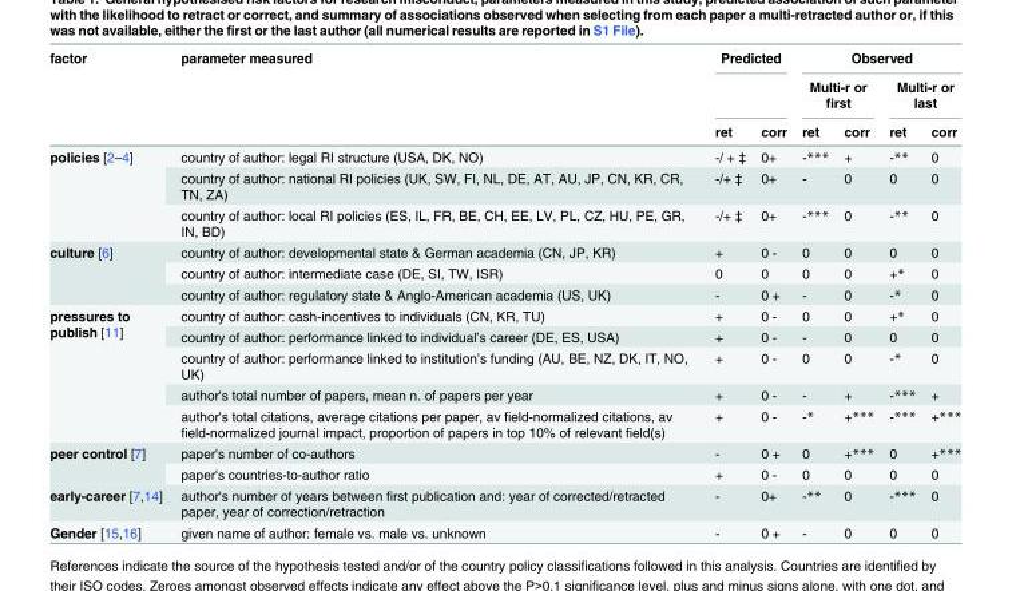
<table><thead><tr><td rowspan="3">factor</td><td rowspan="3">parameter measured</td><td colspan="2">Predicted</td><td colspan="4">Observed</td></tr><tr><td rowspan="2">ret</td><td rowspan="2">corr</td><td colspan="2">Multi-r or first</td><td colspan="2">Multi-r or last</td></tr><tr><td>ret</td><td>corr</td><td>ret</td><td>corr</td></tr></thead><tbody><tr><td rowspan="3">policies [2–4]</td><td>country of author: legal RI structure (USA, DK, NO)</td><td>-/ + ‡</td><td>0+</td><td>-***</td><td>+</td><td>-**</td><td>0</td></tr><tr><td>country of author: national RI policies (UK, SW, FI, NL, DE, AT, AU, JP, CN, KR, CR, TN, ZA)</td><td>-/+ ‡</td><td>0+</td><td>-</td><td>0</td><td>0</td><td>0</td></tr><tr><td>country of author: local RI policies (ES, IL, FR, BE, CH, EE, LV, PL, CZ, HU, PE, GR, IN, BD)</td><td>-/+ ‡</td><td>0+</td><td>-***</td><td>0</td><td>-**</td><td>0</td></tr><tr><td rowspan="3">culture [6]</td><td>country of author: developmental state &amp; German academia (CN, JP, KR)</td><td>+</td><td>0 -</td><td>0</td><td>0</td><td>0</td><td>0</td></tr><tr><td>country of author: intermediate case (DE, SI, TW, ISR)</td><td>0</td><td>0</td><td>0</td><td>0</td><td>+*</td><td>0</td></tr><tr><td>country of author: regulatory state &amp; Anglo-American academia (US, UK)</td><td>-</td><td>0 +</td><td>-</td><td>0</td><td>-*</td><td>0</td></tr><tr><td rowspan="5">pressures to publish [11]</td><td>country of author: cash-incentives to individuals (CN, KR, TU)</td><td>+</td><td>0 -</td><td>0</td><td>0</td><td>+*</td><td>0</td></tr><tr><td>country of author: performance linked to individual’s career (DE, ES, USA)</td><td>+</td><td>0 -</td><td>-</td><td>0</td><td>0</td><td>0</td></tr><tr><td>country of author: performance linked to institution’s funding (AU, BE, NZ, DK, IT, NO, UK)</td><td>+</td><td>0 -</td><td>0</td><td>0</td><td>-*</td><td>0</td></tr><tr><td>author&#x27;s total number of papers, mean n. of papers per year</td><td>+</td><td>0 -</td><td>-</td><td>+</td><td>-***</td><td>+</td></tr><tr><td>author&#x27;s total citations, average citations per paper, av field-normalized citations, av field-normalized journal impact, proportion of papers in top 10% of relevant field(s)</td><td>+</td><td>0 -</td><td>-*</td><td>+***</td><td>-***</td><td>+***</td></tr><tr><td rowspan="2">peer control [7]</td><td>paper&#x27;s number of co-authors</td><td>-</td><td>0 +</td><td>0</td><td>+***</td><td>0</td><td>+***</td></tr><tr><td>paper&#x27;s countries-to-author ratio</td><td>+</td><td>0 -</td><td>0</td><td>0</td><td>0</td><td>0</td></tr><tr><td>early-career [7,14]</td><td>author&#x27;s number of years between first publication and: year of corrected/retracted paper, year of correction/retraction</td><td>-</td><td>0+</td><td>-**</td><td>0</td><td>-***</td><td>0</td></tr><tr><td>Gender [15,16]</td><td>given name of author: female vs. male vs. unknown</td><td>-</td><td>0 +</td><td>-</td><td>0</td><td>0</td><td>0</td></tr></tbody></table>